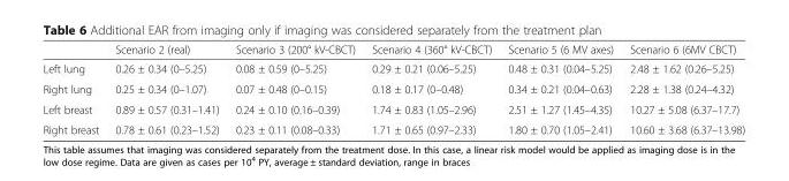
<table><thead><tr><td></td><td>Scenario 2 (real)</td><td>Scenario 3 (200° kV-CBCT)</td><td>Scenario 4 (360° kV-CBCT)</td><td>Scenario 5 (6 MV axes)</td><td>Scenario 6 (6MV CBCT)</td></tr></thead><tbody><tr><td>Left lung</td><td>0.26 ± 0.34 (0–5.25)</td><td>0.08 ± 0.59 (0–5.25)</td><td>0.29 ± 0.21 (0.06–5.25)</td><td>0.48 ± 0.31 (0.04–5.25)</td><td>2.48 ± 1.62 (0.26–5.25)</td></tr><tr><td>Right lung</td><td>0.25 ± 0.34 (0–1.07)</td><td>0.07 ± 0.48 (0–0.15)</td><td>0.18 ± 0.17 (0–0.48)</td><td>0.34 ± 0.21 (0.04–0.63)</td><td>2.28 ± 1.38 (0.24–4.32)</td></tr><tr><td>Left breast</td><td>0.89 ± 0.57 (0.31–1.41)</td><td>0.24 ± 0.10 (0.16–0.39)</td><td>1.74 ± 0.83 (1.05–2.96)</td><td>2.51 ± 1.27 (1.45–4.35)</td><td>10.27 ± 5.08 (6.37–17.7)</td></tr><tr><td>Right breast</td><td>0.78 ± 0.61 (0.23–1.52)</td><td>0.23 ± 0.11 (0.08–0.33)</td><td>1.71 ± 0.65 (0.97–2.33)</td><td>1.80 ± 0.70 (1.05–2.41)</td><td>10.60 ± 3.68 (6.37–13.98)</td></tr></tbody></table>